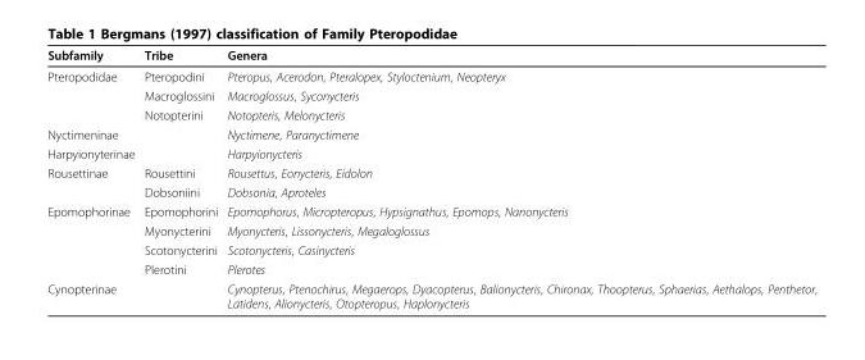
<table><thead><tr><td>Subfamily</td><td>Tribe</td><td>Genera</td></tr></thead><tbody><tr><td rowspan="3">Pteropodidae</td><td>Pteropodini</td><td>Pteropus, Acerodon, Pteralopex, Styloctenium, Neopteryx</td></tr><tr><td>Macroglossini</td><td>Macroglossus, Syconycteris</td></tr><tr><td>Notopterini</td><td>Notopteris, Melonycteris</td></tr><tr><td>Nyctimeninae</td><td></td><td>Nyctimene, Paranyctimene</td></tr><tr><td>Harpyionyterinae</td><td></td><td>Harpyionycteris</td></tr><tr><td rowspan="2">Rousettinae</td><td>Rousettini</td><td>Rousettus, Eonycteris, Eidolon</td></tr><tr><td>Dobsoniini</td><td>Dobsonia, Aproteles</td></tr><tr><td rowspan="4">Epomophorinae</td><td>Epomophorini</td><td>Epomophorus, Micropteropus, Hypsignathus, Epomops, Nanonycteris</td></tr><tr><td>Myonycterini</td><td>Myonycteris, Lissonycteris, Megaloglossus</td></tr><tr><td>Scotonycterini</td><td>Scotonycteris, Casinycteris</td></tr><tr><td>Plerotini</td><td>Plerotes</td></tr><tr><td>Cynopterinae</td><td></td><td>Cynopterus, Ptenochirus, Megaerops, Dyacopterus, Balionycteris, Chironax, Thoopterus, Sphaerias, Aethalops, Penthetor, Latidens, Alionycteris, Otopteropus, Haplonycteris</td></tr></tbody></table>